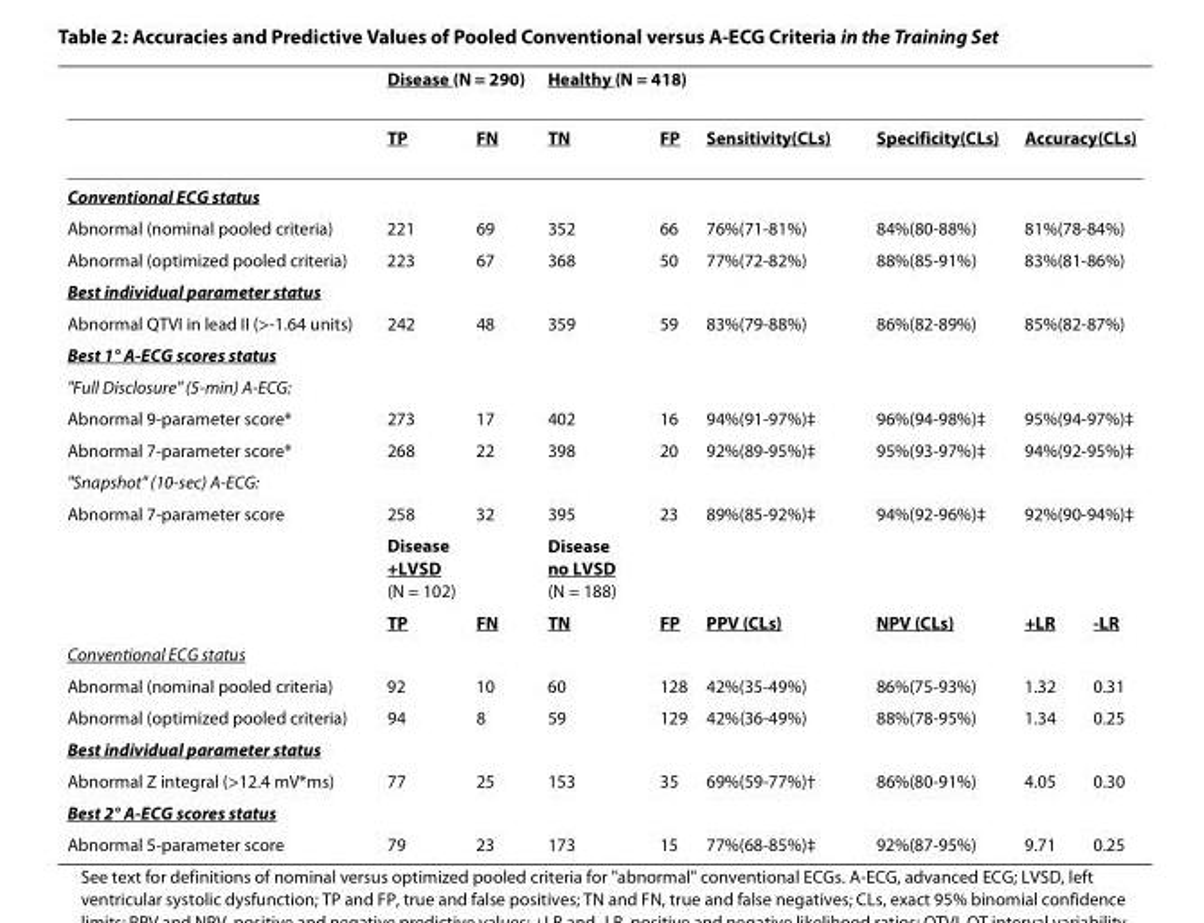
<table><thead><tr><td rowspan="2"></td><td colspan="2">Disease (N = 290)</td><td colspan="2">Healthy (N = 418)</td><td rowspan="2">Sensitivity(CLs)</td><td rowspan="2">Specificity(CLs)</td><td></td><td></td></tr><tr><td>TP</td><td>FN</td><td>TN</td><td>FP</td><td colspan="2">Accuracy(CLs)</td></tr></thead><tbody><tr><td colspan="9">Conventional ECG status</td></tr><tr><td>Abnormal (nominal pooled criteria)</td><td>221</td><td>69</td><td>352</td><td>66</td><td>76%(71-81%)</td><td>84%(80-88%)</td><td colspan="2">81%(78-84%)</td></tr><tr><td>Abnormal (optimized pooled criteria)</td><td>223</td><td>67</td><td>368</td><td>50</td><td>77%(72-82%)</td><td>88%(85-91%)</td><td colspan="2">83%(81-86%)</td></tr><tr><td colspan="9">Best individual parameter status</td></tr><tr><td>Abnormal QTVI in lead II (&gt;-1.64 units)</td><td>242</td><td>48</td><td>359</td><td>59</td><td>83%(79-88%)</td><td>86%(82-89%)</td><td colspan="2">85%(82-87%)</td></tr><tr><td colspan="9">Best 1° A-ECG scores status</td></tr><tr><td colspan="9">&quot;Full Disclosure&quot; (5-min) A-ECG:</td></tr><tr><td>Abnormal 9-parameter score*</td><td>273</td><td>17</td><td>402</td><td>16</td><td>94%(91-97%)‡</td><td>96%(94-98%)‡</td><td colspan="2">95%(94-97%)‡</td></tr><tr><td>Abnormal 7-parameter score*</td><td>268</td><td>22</td><td>398</td><td>20</td><td>92%(89-95%)‡</td><td>95%(93-97%)‡</td><td colspan="2">94%(92-95%)‡</td></tr><tr><td colspan="9">&quot;Snapshot&quot; (10-sec) A-ECG:</td></tr><tr><td rowspan="3">Abnormal 7-parameter score</td><td>258</td><td>32</td><td>395</td><td>23</td><td>89%(85-92%)‡</td><td>94%(92-96%)‡</td><td colspan="2">92%(90-94%)‡</td></tr><tr><td colspan="2">Disease +LVSD (N = 102)</td><td colspan="2">Disease no LVSD (N = 188)</td><td></td><td></td><td></td><td></td></tr><tr><td>TP</td><td>FN</td><td>TN</td><td>FP</td><td>PPV (CLs)</td><td>NPV (CLs)</td><td>+LR</td><td>-LR</td></tr><tr><td colspan="9">Conventional ECG status</td></tr><tr><td>Abnormal (nominal pooled criteria)</td><td>92</td><td>10</td><td>60</td><td>128</td><td>42%(35-49%)</td><td>86%(75-93%)</td><td>1.32</td><td>0.31</td></tr><tr><td>Abnormal (optimized pooled criteria)</td><td>94</td><td>8</td><td>59</td><td>129</td><td>42%(36-49%)</td><td>88%(78-95%)</td><td>1.34</td><td>0.25</td></tr><tr><td colspan="9">Best individual parameter status</td></tr><tr><td>Abnormal Z integral (&gt;12.4 mV*ms)</td><td>77</td><td>25</td><td>153</td><td>35</td><td>69%(59-77%)†</td><td>86%(80-91%)</td><td>4.05</td><td>0.30</td></tr><tr><td colspan="9">Best 2° A-ECG scores status</td></tr><tr><td>Abnormal 5-parameter score</td><td>79</td><td>23</td><td>173</td><td>15</td><td>77%(68-85%)‡</td><td>92%(87-95%)</td><td>9.71</td><td>0.25</td></tr></tbody></table>